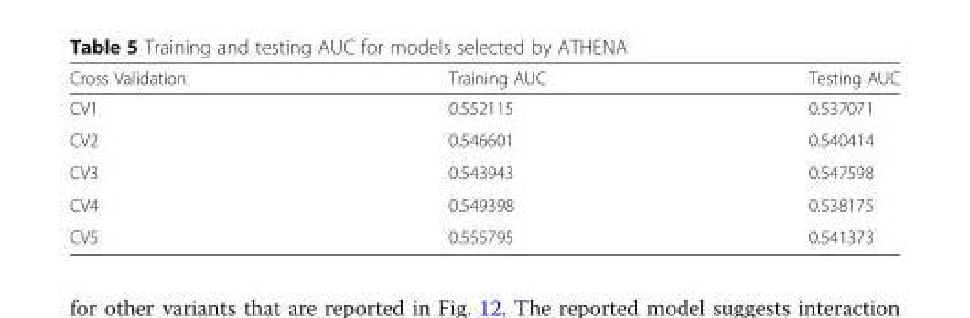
<table><thead><tr><td>Cross Validation</td><td>Training AUC</td><td>Testing AUC</td></tr></thead><tbody><tr><td>CV1</td><td>0.552115</td><td>0.537071</td></tr><tr><td>CV2</td><td>0.546601</td><td>0.540414</td></tr><tr><td>CV3</td><td>0.543943</td><td>0.547598</td></tr><tr><td>CV4</td><td>0.549398</td><td>0.538175</td></tr><tr><td>CV5</td><td>0.555795</td><td>0.541373</td></tr></tbody></table>